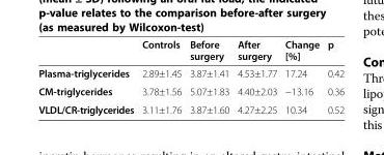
<table><thead><tr><td></td><td>Controls</td><td>Before surgery</td><td>After surgery</td><td>Change [%]</td><td>p</td></tr></thead><tbody><tr><td>Plasma-triglycerides</td><td>2.89±1.45</td><td>3.87±1.41</td><td>4.53±1.77</td><td>17.24</td><td>0.42</td></tr><tr><td>CM-triglycerides</td><td>3.78±1.56</td><td>5.07±1.83</td><td>4.40±2.03</td><td>−13.16</td><td>0.36</td></tr><tr><td>VLDL/CR-triglycerides</td><td>3.11±1.76</td><td>3.87±1.60</td><td>4.27±2.25</td><td>10.34</td><td>0.52</td></tr></tbody></table>